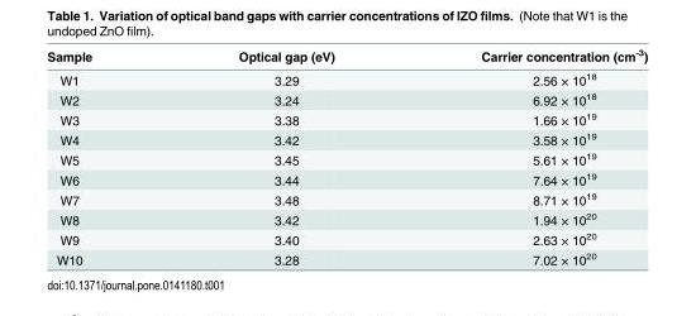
<table><thead><tr><td>Sample</td><td>Optical gap (eV)</td><td>Carrier concentration (cm<sup>-3</sup>)</td></tr></thead><tbody><tr><td>W1</td><td>3.29</td><td>2.56 × 10<sup>18</sup></td></tr><tr><td>W2</td><td>3.24</td><td>6.92 × 10<sup>18</sup></td></tr><tr><td>W3</td><td>3.38</td><td>1.66 × 10<sup>19</sup></td></tr><tr><td>W4</td><td>3.42</td><td>3.58 × 10<sup>19</sup></td></tr><tr><td>W5</td><td>3.45</td><td>5.61 × 10<sup>19</sup></td></tr><tr><td>W6</td><td>3.44</td><td>7.64 × 10<sup>19</sup></td></tr><tr><td>W7</td><td>3.48</td><td>8.71 × 10<sup>19</sup></td></tr><tr><td>W8</td><td>3.42</td><td>1.94 × 10<sup>20</sup></td></tr><tr><td>W9</td><td>3.40</td><td>2.63 × 10<sup>20</sup></td></tr><tr><td>W10</td><td>3.28</td><td>7.02 × 10<sup>20</sup></td></tr></tbody></table>